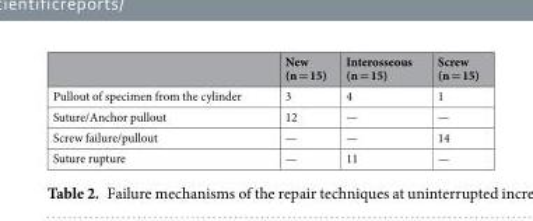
<table><thead><tr><td></td><td>New (n = 15)</td><td>Interosseous (n = 15)</td><td>Screw (n = 15)</td></tr></thead><tbody><tr><td>Pullout of specimen from the cylinder</td><td>3</td><td>4</td><td>1</td></tr><tr><td>Suture/Anchor pullout</td><td>12</td><td>—</td><td>—</td></tr><tr><td>Screw failure/pullout</td><td>—</td><td>—</td><td>14</td></tr><tr><td>Suture rupture</td><td>—</td><td>11</td><td>—</td></tr></tbody></table>